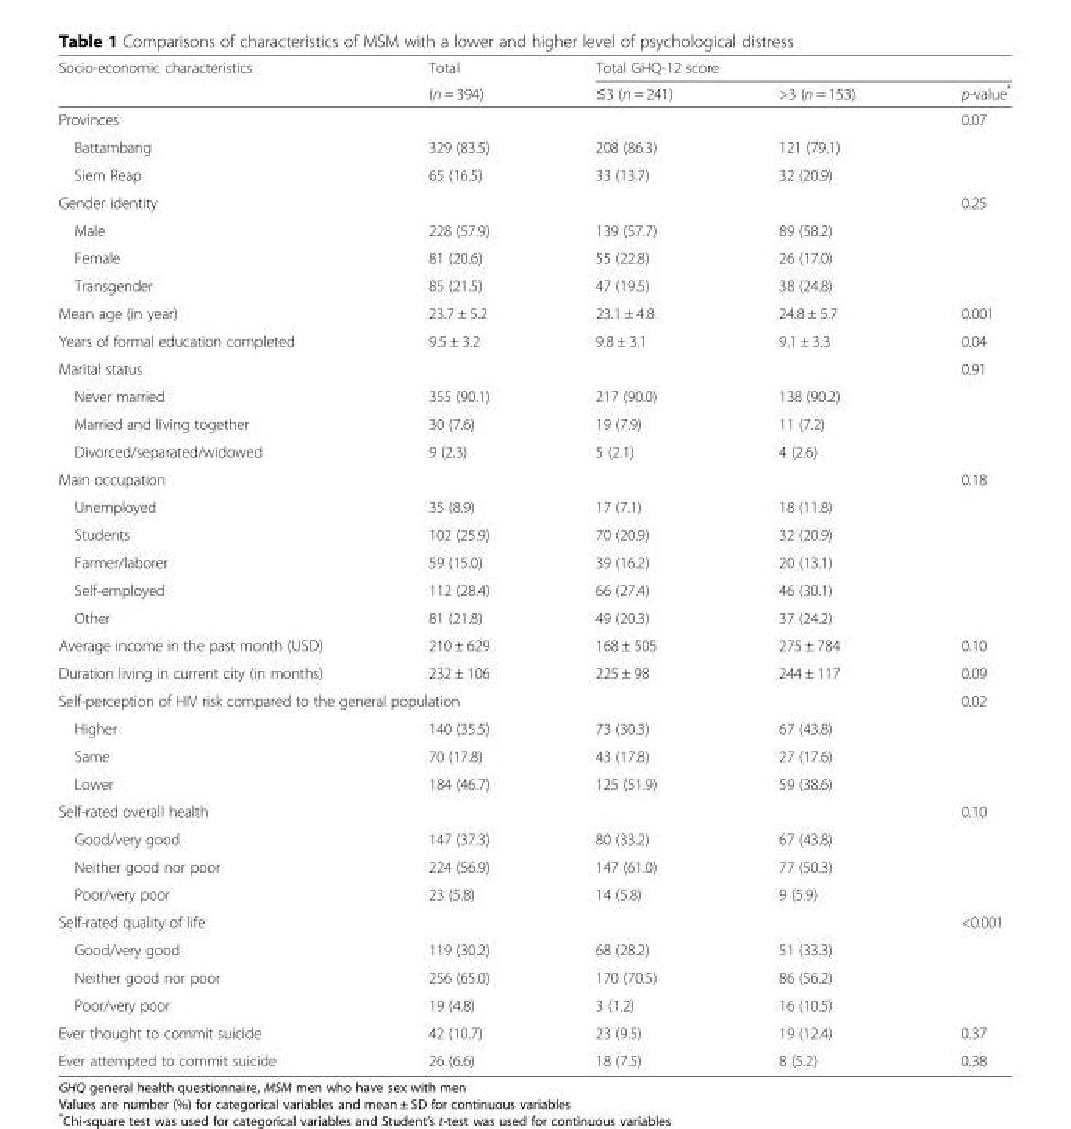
<table><thead><tr><td rowspan="2">Socio-economic characteristics</td><td rowspan="2">Total (n = 394)</td><td colspan="3">Total GHQ-12 score</td></tr><tr><td>≤3 (n = 241)</td><td>&gt;3 (n = 153)</td><td>p-value*</td></tr></thead><tbody><tr><td>Provinces</td><td></td><td></td><td></td><td>0.07</td></tr><tr><td>Battambang</td><td>329 (83.5)</td><td>208 (86.3)</td><td>121 (79.1)</td><td></td></tr><tr><td>Siem Reap</td><td>65 (16.5)</td><td>33 (13.7)</td><td>32 (20.9)</td><td></td></tr><tr><td>Gender identity</td><td></td><td></td><td></td><td>0.25</td></tr><tr><td>Male</td><td>228 (57.9)</td><td>139 (57.7)</td><td>89 (58.2)</td><td></td></tr><tr><td>Female</td><td>81 (20.6)</td><td>55 (22.8)</td><td>26 (17.0)</td><td></td></tr><tr><td>Transgender</td><td>85 (21.5)</td><td>47 (19.5)</td><td>38 (24.8)</td><td></td></tr><tr><td>Mean age (in year)</td><td>23.7 ± 5.2</td><td>23.1 ± 4.8</td><td>24.8 ± 5.7</td><td>0.001</td></tr><tr><td>Years of formal education completed</td><td>9.5 ± 3.2</td><td>9.8 ± 3.1</td><td>9.1 ± 3.3</td><td>0.04</td></tr><tr><td>Marital status</td><td></td><td></td><td></td><td>0.91</td></tr><tr><td>Never married</td><td>355 (90.1)</td><td>217 (90.0)</td><td>138 (90.2)</td><td></td></tr><tr><td>Married and living together</td><td>30 (7.6)</td><td>19 (7.9)</td><td>11 (7.2)</td><td></td></tr><tr><td>Divorced/separated/widowed</td><td>9 (2.3)</td><td>5 (2.1)</td><td>4 (2.6)</td><td></td></tr><tr><td>Main occupation</td><td></td><td></td><td></td><td>0.18</td></tr><tr><td>Unemployed</td><td>35 (8.9)</td><td>17 (7.1)</td><td>18 (11.8)</td><td></td></tr><tr><td>Students</td><td>102 (25.9)</td><td>70 (20.9)</td><td>32 (20.9)</td><td></td></tr><tr><td>Farmer/laborer</td><td>59 (15.0)</td><td>39 (16.2)</td><td>20 (13.1)</td><td></td></tr><tr><td>Self-employed</td><td>112 (28.4)</td><td>66 (27.4)</td><td>46 (30.1)</td><td></td></tr><tr><td>Other</td><td>81 (21.8)</td><td>49 (20.3)</td><td>37 (24.2)</td><td></td></tr><tr><td>Average income in the past month (USD)</td><td>210 ± 629</td><td>168 ± 505</td><td>275 ± 784</td><td>0.10</td></tr><tr><td>Duration living in current city (in months)</td><td>232 ± 106</td><td>225 ± 98</td><td>244 ± 117</td><td>0.09</td></tr><tr><td colspan="3">Self-perception of HIV risk compared to the general population</td><td></td><td>0.02</td></tr><tr><td>Higher</td><td>140 (35.5)</td><td>73 (30.3)</td><td>67 (43.8)</td><td></td></tr><tr><td>Same</td><td>70 (17.8)</td><td>43 (17.8)</td><td>27 (17.6)</td><td></td></tr><tr><td>Lower</td><td>184 (46.7)</td><td>125 (51.9)</td><td>59 (38.6)</td><td></td></tr><tr><td colspan="3">Self-rated overall health</td><td></td><td>0.10</td></tr><tr><td>Good/very good</td><td>147 (37.3)</td><td>80 (33.2)</td><td>67 (43.8)</td><td></td></tr><tr><td>Neither good nor poor</td><td>224 (56.9)</td><td>147 (61.0)</td><td>77 (50.3)</td><td></td></tr><tr><td>Poor/very poor</td><td>23 (5.8)</td><td>14 (5.8)</td><td>9 (5.9)</td><td></td></tr><tr><td>Self-rated quality of life</td><td></td><td></td><td></td><td>&lt;0.001</td></tr><tr><td>Good/very good</td><td>119 (30.2)</td><td>68 (28.2)</td><td>51 (33.3)</td><td></td></tr><tr><td>Neither good nor poor</td><td>256 (65.0)</td><td>170 (70.5)</td><td>86 (56.2)</td><td></td></tr><tr><td>Poor/very poor</td><td>19 (4.8)</td><td>3 (1.2)</td><td>16 (10.5)</td><td></td></tr><tr><td>Ever thought to commit suicide</td><td>42 (10.7)</td><td>23 (9.5)</td><td>19 (12.4)</td><td>0.37</td></tr><tr><td>Ever attempted to commit suicide</td><td>26 (6.6)</td><td>18 (7.5)</td><td>8 (5.2)</td><td>0.38</td></tr></tbody></table>